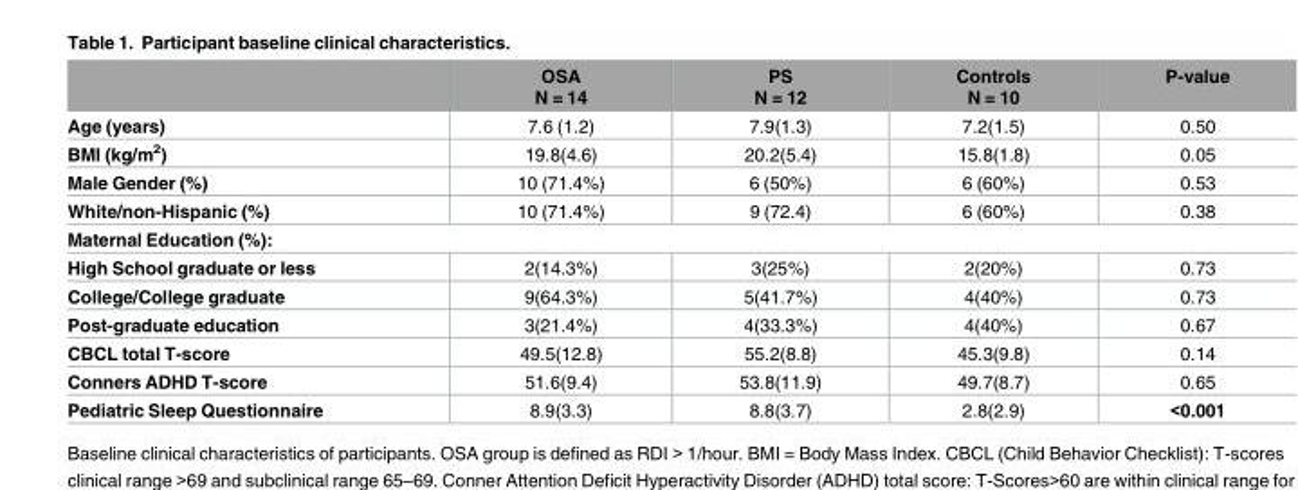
<table><thead><tr><td></td><td>OSA N = 14</td><td>PS N = 12</td><td>Controls N = 10</td><td>P-value</td></tr></thead><tbody><tr><td>Age (years)</td><td>7.6 (1.2)</td><td>7.9(1.3)</td><td>7.2(1.5)</td><td>0.50</td></tr><tr><td>BMI (kg/m<sup>2</sup>)</td><td>19.8(4.6)</td><td>20.2(5.4)</td><td>15.8(1.8)</td><td>0.05</td></tr><tr><td>Male Gender (%)</td><td>10 (71.4%)</td><td>6 (50%)</td><td>6 (60%)</td><td>0.53</td></tr><tr><td>White/non-Hispanic (%)</td><td>10 (71.4%)</td><td>9 (72.4)</td><td>6 (60%)</td><td>0.38</td></tr><tr><td colspan="5">Maternal Education (%):</td></tr><tr><td>High School graduate or less</td><td>2(14.3%)</td><td>3(25%)</td><td>2(20%)</td><td>0.73</td></tr><tr><td>College/College graduate</td><td>9(64.3%)</td><td>5(41.7%)</td><td>4(40%)</td><td>0.73</td></tr><tr><td>Post-graduate education</td><td>3(21.4%)</td><td>4(33.3%)</td><td>4(40%)</td><td>0.67</td></tr><tr><td>CBCL total T-score</td><td>49.5(12.8)</td><td>55.2(8.8)</td><td>45.3(9.8)</td><td>0.14</td></tr><tr><td>Conners ADHD T-score</td><td>51.6(9.4)</td><td>53.8(11.9)</td><td>49.7(8.7)</td><td>0.65</td></tr><tr><td>Pediatric Sleep Questionnaire</td><td>8.9(3.3)</td><td>8.8(3.7)</td><td>2.8(2.9)</td><td>&lt;0.001</td></tr></tbody></table>